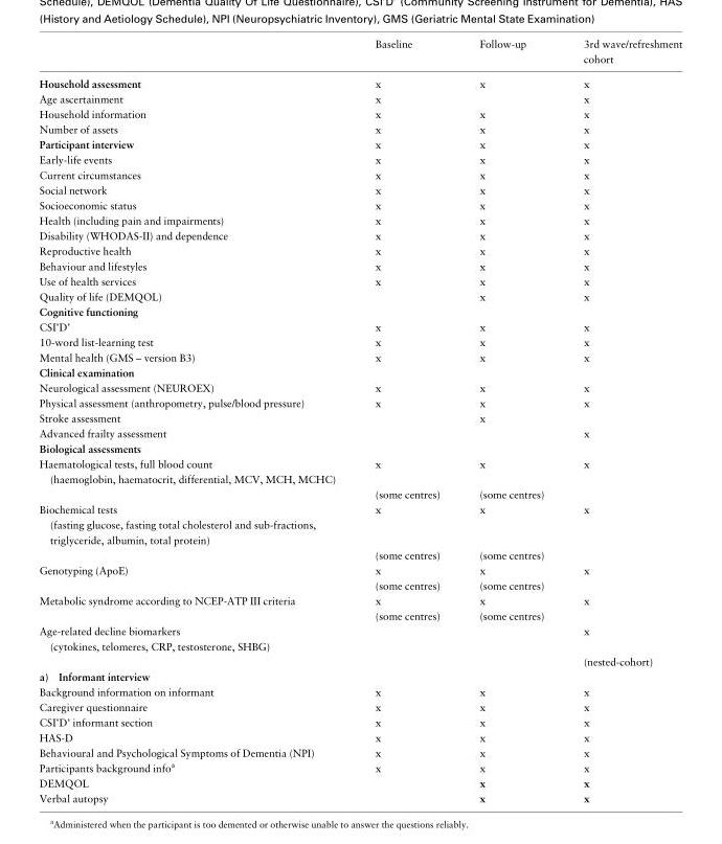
<table><thead><tr><td></td><td>Baseline</td><td>Follow-up</td><td>3rd wave/refreshment cohort</td></tr></thead><tbody><tr><td>Household assessment</td><td>x</td><td>x</td><td>x</td></tr><tr><td>Age ascertainment</td><td>x</td><td></td><td>x</td></tr><tr><td>Household information</td><td>x</td><td>x</td><td>x</td></tr><tr><td>Number of assets</td><td>x</td><td>x</td><td>x</td></tr><tr><td>Participant interview</td><td>x</td><td>x</td><td>x</td></tr><tr><td>Early-life events</td><td>x</td><td>x</td><td>x</td></tr><tr><td>Current circumstances</td><td>x</td><td>x</td><td>x</td></tr><tr><td>Social network</td><td>x</td><td>x</td><td>x</td></tr><tr><td>Socioeconomic status</td><td>x</td><td>x</td><td>x</td></tr><tr><td>Health (including pain and impairments)</td><td>x</td><td>x</td><td>x</td></tr><tr><td>Disability (WHODAS-II) and dependence</td><td>x</td><td>x</td><td>x</td></tr><tr><td>Reproductive health</td><td>x</td><td>x</td><td>x</td></tr><tr><td>Behaviour and lifestyles</td><td>x</td><td>x</td><td>x</td></tr><tr><td>Use of health services</td><td>x</td><td>x</td><td>x</td></tr><tr><td>Quality of life (DEMQOL)</td><td></td><td>x</td><td>x</td></tr><tr><td colspan="4">Cognitive functioning</td></tr><tr><td>CSI’D’</td><td>x</td><td>x</td><td>x</td></tr><tr><td>10-word list-learning test</td><td>x</td><td>x</td><td>x</td></tr><tr><td>Mental health (GMS – version B3)</td><td>x</td><td>x</td><td>x</td></tr><tr><td colspan="4">Clinical examination</td></tr><tr><td>Neurological assessment (NEUROEX)</td><td>x</td><td>x</td><td>x</td></tr><tr><td>Physical assessment (anthropometry, pulse/blood pressure)</td><td>x</td><td>x</td><td>x</td></tr><tr><td>Stroke assessment</td><td></td><td>x</td><td></td></tr><tr><td>Advanced frailty assessment</td><td></td><td></td><td>x</td></tr><tr><td colspan="4">Biological assessments</td></tr><tr><td rowspan="2">Haematological tests, full blood count (haemoglobin, haematocrit, differential, MCV, MCH, MCHC)</td><td>x</td><td>x</td><td>x</td></tr><tr><td>(some centres)</td><td>(some centres)</td><td></td></tr><tr><td rowspan="2">Biochemical tests (fasting glucose, fasting total cholesterol and sub-fractions, triglyceride, albumin, total protein)</td><td>x</td><td>x</td><td>x</td></tr><tr><td>(some centres)</td><td>(some centres)</td><td></td></tr><tr><td rowspan="2">Genotyping (ApoE)</td><td>x</td><td>x</td><td>x</td></tr><tr><td>(some centres)</td><td>(some centres)</td><td></td></tr><tr><td rowspan="2">Metabolic syndrome according to NCEP-ATP III criteria</td><td>x</td><td>x</td><td>x</td></tr><tr><td>(some centres)</td><td>(some centres)</td><td></td></tr><tr><td rowspan="2">Age-related decline biomarkers (cytokines, telomeres, CRP, testosterone, SHBG)</td><td></td><td></td><td>x</td></tr><tr><td></td><td></td><td>(nested-cohort)</td></tr><tr><td colspan="4">a) Informant interview</td></tr><tr><td>Background information on informant</td><td>x</td><td>x</td><td>x</td></tr><tr><td>Caregiver questionnaire</td><td>x</td><td>x</td><td>x</td></tr><tr><td>CSI’D’ informant section</td><td>x</td><td>x</td><td>x</td></tr><tr><td>HAS-D</td><td>x</td><td>x</td><td>x</td></tr><tr><td>Behavioural and Psychological Symptoms of Dementia (NPI)</td><td>x</td><td>x</td><td>x</td></tr><tr><td>Participants background info<sup>a</sup></td><td>x</td><td>x</td><td>x</td></tr><tr><td>DEMQOL</td><td></td><td>x</td><td>x</td></tr><tr><td>Verbal autopsy</td><td></td><td>x</td><td>x</td></tr></tbody></table>